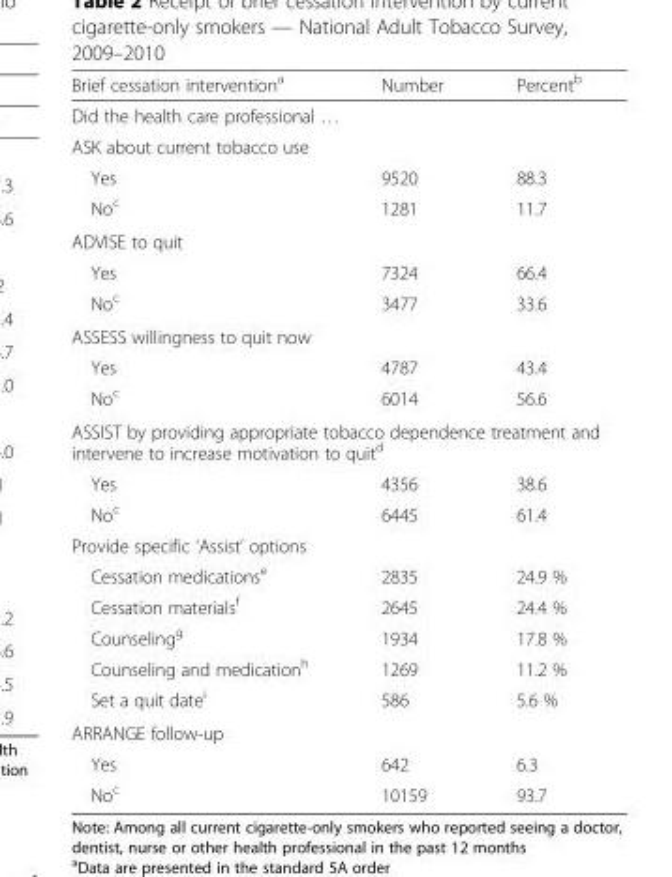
<table><thead><tr><td>Brief cessation intervention<sup>a</sup></td><td>Number</td><td>Percent<sup>b</sup></td></tr></thead><tbody><tr><td colspan="3">Did the health care professional …</td></tr><tr><td colspan="3">ASK about current tobacco use</td></tr><tr><td>Yes</td><td>9520</td><td>88.3</td></tr><tr><td>No<sup>c</sup></td><td>1281</td><td>11.7</td></tr><tr><td colspan="3">ADVISE to quit</td></tr><tr><td>Yes</td><td>7324</td><td>66.4</td></tr><tr><td>No<sup>c</sup></td><td>3477</td><td>33.6</td></tr><tr><td colspan="3">ASSESS willingness to quit now</td></tr><tr><td>Yes</td><td>4787</td><td>43.4</td></tr><tr><td>No<sup>c</sup></td><td>6014</td><td>56.6</td></tr><tr><td colspan="3">ASSIST by providing appropriate tobacco dependence treatment and intervene to increase motivation to quit<sup>d</sup></td></tr><tr><td>Yes</td><td>4356</td><td>38.6</td></tr><tr><td>No<sup>c</sup></td><td>6445</td><td>61.4</td></tr><tr><td colspan="3">Provide specific ‘Assist’ options</td></tr><tr><td>Cessation medications<sup>e</sup></td><td>2835</td><td>24.9 %</td></tr><tr><td>Cessation materials<sup>f</sup></td><td>2645</td><td>24.4 %</td></tr><tr><td>Counseling<sup>g</sup></td><td>1934</td><td>17.8 %</td></tr><tr><td>Counseling and medication<sup>h</sup></td><td>1269</td><td>11.2 %</td></tr><tr><td>Set a quit date<sup>i</sup></td><td>586</td><td>5.6 %</td></tr><tr><td colspan="3">ARRANGE follow-up</td></tr><tr><td>Yes</td><td>642</td><td>6.3</td></tr><tr><td>No<sup>c</sup></td><td>10159</td><td>93.7</td></tr></tbody></table>